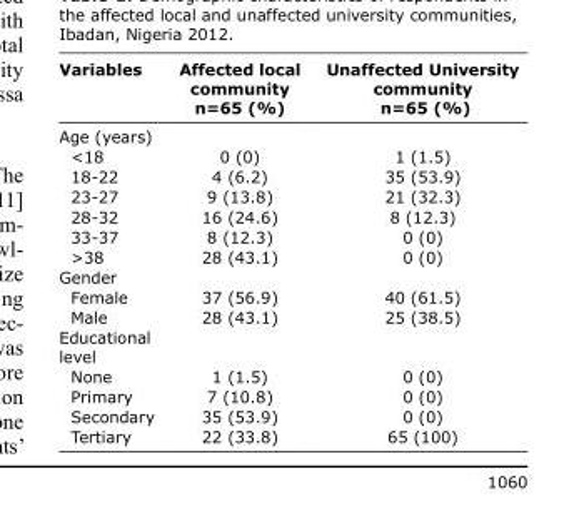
<table><thead><tr><td>Variables</td><td>Affected local community n=65 (%)</td><td>Unaffected University community n=65 (%)</td></tr></thead><tbody><tr><td colspan="3">Age (years)</td></tr><tr><td>&lt;18</td><td>0 (0)</td><td>1 (1.5)</td></tr><tr><td>18-22</td><td>4 (6.2)</td><td>35 (53.9)</td></tr><tr><td>23-27</td><td>9 (13.8)</td><td>21 (32.3)</td></tr><tr><td>28-32</td><td>16 (24.6)</td><td>8 (12.3)</td></tr><tr><td>33-37</td><td>8 (12.3)</td><td>0 (0)</td></tr><tr><td>&gt;38</td><td>28 (43.1)</td><td>0 (0)</td></tr><tr><td colspan="3">Gender</td></tr><tr><td>Female</td><td>37 (56.9)</td><td>40 (61.5)</td></tr><tr><td>Male</td><td>28 (43.1)</td><td>25 (38.5)</td></tr><tr><td colspan="3">Educational level</td></tr><tr><td>None</td><td>1 (1.5)</td><td>0 (0)</td></tr><tr><td>Primary</td><td>7 (10.8)</td><td>0 (0)</td></tr><tr><td>Secondary</td><td>35 (53.9)</td><td>0 (0)</td></tr><tr><td>Tertiary</td><td>22 (33.8)</td><td>65 (100)</td></tr></tbody></table>